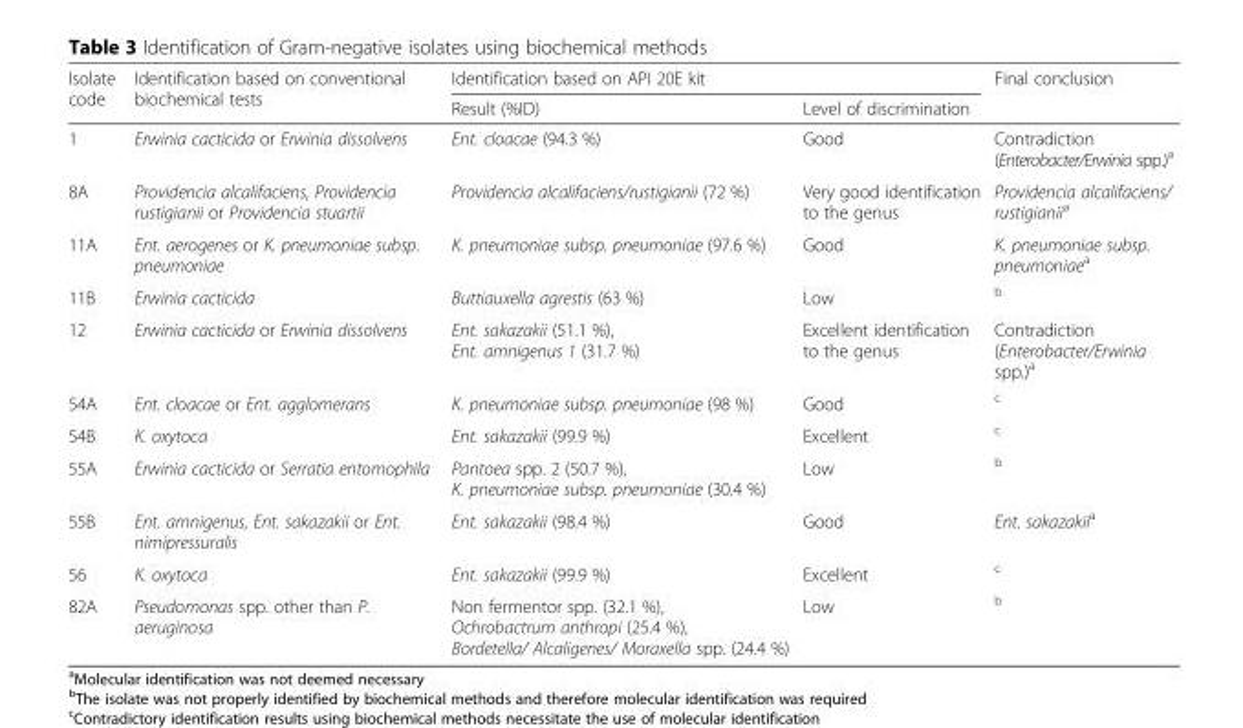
<table><thead><tr><td rowspan="2">Isolate code</td><td rowspan="2">Identification based on conventional biochemical tests</td><td colspan="2">Identification based on API 20E kit</td><td rowspan="2">Final conclusion</td></tr><tr><td>Result (%ID)</td><td>Level of discrimination</td></tr></thead><tbody><tr><td>1</td><td>Erwinia cacticida or Erwinia dissolvens</td><td>Ent. cloacae (94.3 %)</td><td>Good</td><td>Contradiction (Enterobacter/Erwinia spp.)<sup>a</sup></td></tr><tr><td>8A</td><td>Providencia alcalifaciens, Providencia rustigianii or Providencia stuartii</td><td>Providencia alcalifaciens/rustigianii (72 %)</td><td>Very good identification to the genus</td><td>Providencia alcalifaciens/ rustigianii<sup>a</sup></td></tr><tr><td>11A</td><td>Ent. aerogenes or K. pneumoniae subsp. pneumoniae</td><td>K. pneumoniae subsp. pneumoniae (97.6 %)</td><td>Good</td><td>K. pneumoniae subsp. pneumoniae<sup>a</sup></td></tr><tr><td>11B</td><td>Erwinia cacticida</td><td>Buttiauxella agrestis (63 %)</td><td>Low</td><td><sup>b</sup></td></tr><tr><td>12</td><td>Erwinia cacticida or Erwinia dissolvens</td><td>Ent. sakazakii (51.1 %), Ent. amnigenus 1 (31.7 %)</td><td>Excellent identification to the genus</td><td>Contradiction (Enterobacter/Erwinia spp.)<sup>a</sup></td></tr><tr><td>54A</td><td>Ent. cloacae or Ent. agglomerans</td><td>K. pneumoniae subsp. pneumoniae (98 %)</td><td>Good</td><td><sup>c</sup></td></tr><tr><td>54B</td><td>K. oxytoca</td><td>Ent. sakazakii (99.9 %)</td><td>Excellent</td><td><sup>c</sup></td></tr><tr><td>55A</td><td>Erwinia cacticida or Serratia entomophila</td><td>Pantoea spp. 2 (50.7 %), K. pneumoniae subsp. pneumoniae (30.4 %)</td><td>Low</td><td><sup>b</sup></td></tr><tr><td>55B</td><td>Ent. amnigenus, Ent. sakazakii or Ent. nimipressuralis</td><td>Ent. sakazakii (98.4 %)</td><td>Good</td><td>Ent. sakazakii<sup>a</sup></td></tr><tr><td>56</td><td>K. oxytoca</td><td>Ent. sakazakii (99.9 %)</td><td>Excellent</td><td><sup>c</sup></td></tr><tr><td>82A</td><td>Pseudomonas spp. other than P. aeruginosa</td><td>Non fermentor spp. (32.1 %), Ochrobactrum anthropi (25.4 %), Bordetella/ Alcaligenes/ Moraxella spp. (24.4 %)</td><td>Low</td><td><sup>b</sup></td></tr></tbody></table>